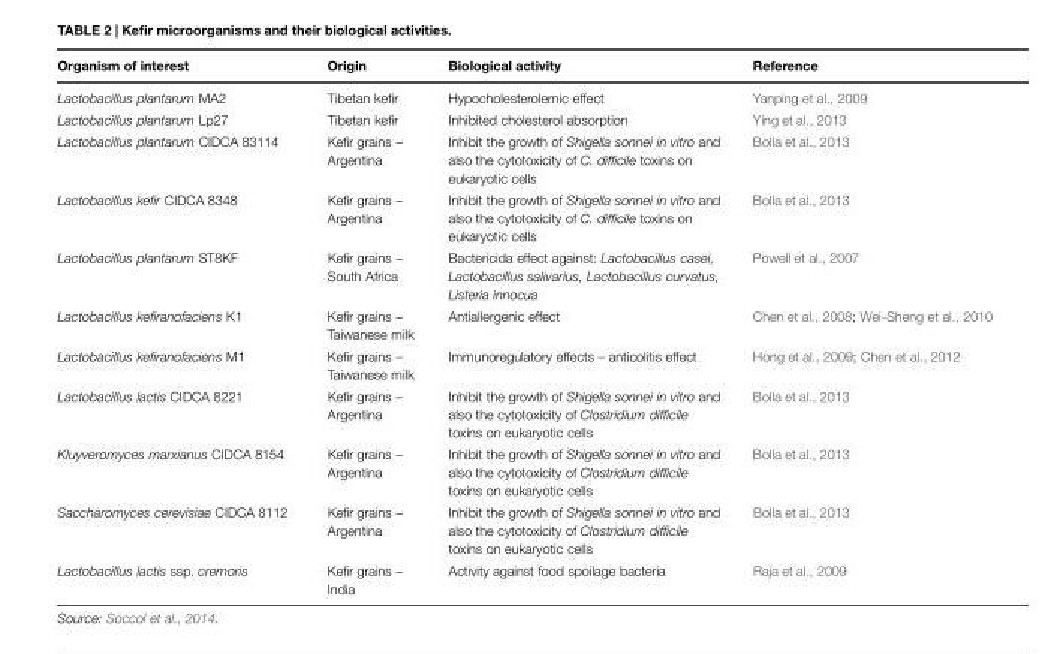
<table><thead><tr><td>Organism of interest</td><td>Origin</td><td>Biological activity</td><td>Reference</td></tr></thead><tbody><tr><td>Lactobacillus plantarum MA2</td><td>Tibetan kefir</td><td>Hypocholesterolemic effect</td><td>Yanping et al., 2009</td></tr><tr><td>Lactobacillus plantarum Lp27</td><td>Tibetan kefir</td><td>Inhibited cholesterol absorption</td><td>Ying et al., 2013</td></tr><tr><td>Lactobacillus plantarum CIDCA 83114</td><td>Kefir grains – Argentina</td><td>Inhibit the growth of Shigella sonnei in vitro and also the cytotoxicity of C. difficile toxins on eukaryotic cells</td><td>Bolla et al., 2013</td></tr><tr><td>Lactobacillus kefir CIDCA 8348</td><td>Kefir grains – Argentina</td><td>Inhibit the growth of Shigella sonnei in vitro and also the cytotoxicity of C. difficile toxins on eukaryotic cells</td><td>Bolla et al., 2013</td></tr><tr><td>Lactobacillus plantarum ST8KF</td><td>Kefir grains – South Africa</td><td>Bactericida effect against: Lactobacillus casei, Lactobacillus salivarius, Lactobacillus curvatus, Listeria innocua</td><td>Powell et al., 2007</td></tr><tr><td>Lactobacillus kefiranofaciens K1</td><td>Kefir grains – Taiwanese milk</td><td>Antiallergenic effect</td><td>Chen et al., 2008; Wei-Sheng et al., 2010</td></tr><tr><td>Lactobacillus kefiranofaciens M1</td><td>Kefir grains – Taiwanese milk</td><td>Immunoregulatory effects – anticolitis effect</td><td>Hong et al., 2009; Chen et al., 2012</td></tr><tr><td>Lactobacillus lactis CIDCA 8221</td><td>Kefir grains – Argentina</td><td>Inhibit the growth of Shigella sonnei in vitro and also the cytotoxicity of Clostridium difficile toxins on eukaryotic cells</td><td>Bolla et al., 2013</td></tr><tr><td>Kluyveromyces marxianus CIDCA 8154</td><td>Kefir grains – Argentina</td><td>Inhibit the growth of Shigella sonnei in vitro and also the cytotoxicity of Clostridium difficile toxins on eukaryotic cells</td><td>Bolla et al., 2013</td></tr><tr><td>Saccharomyces cerevisiae CIDCA 8112</td><td>Kefir grains – Argentina</td><td>Inhibit the growth of Shigella sonnei in vitro and also the cytotoxicity of Clostridium difficile toxins on eukaryotic cells</td><td>Bolla et al., 2013</td></tr><tr><td>Lactobacillus lactis ssp. cremoris</td><td>Kefir grains – India</td><td>Activity against food spoilage bacteria</td><td>Raja et al., 2009</td></tr></tbody></table>